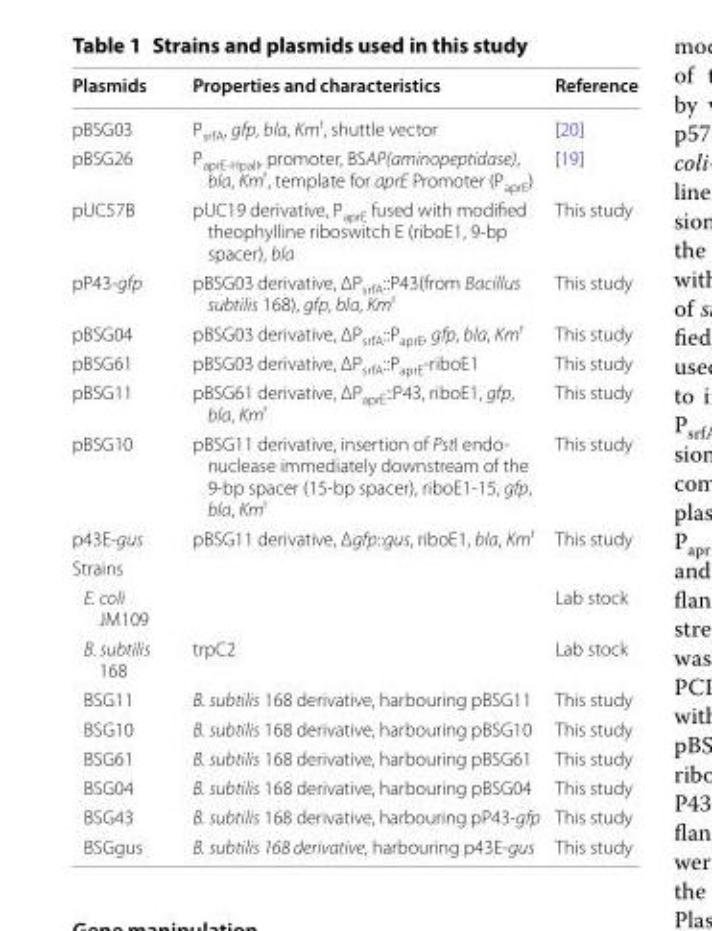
<table><thead><tr><td>Plasmids</td><td>Properties and characteristics</td><td>Reference</td></tr></thead><tbody><tr><td>pBSG03</td><td>P<sub>srfA</sub>, gfp, bla, Km<sup>r</sup>, shuttle vector</td><td>[20]</td></tr><tr><td>pBSG26</td><td>P<sub>aprE-HpaII</sub>, promoter, BSAP(aminopeptidase), bla, Km<sup>r</sup>, template for aprE Promoter (P<sub>aprE</sub>)</td><td>[19]</td></tr><tr><td>pUC57B</td><td>pUC19 derivative, P<sub>aprE</sub> fused with modified theophylline riboswitch E (riboE1, 9-bp spacer), bla</td><td>This study</td></tr><tr><td>pP43-gfp</td><td>pBSG03 derivative, ΔP<sub>srfA</sub>::P43(from Bacillus subtilis 168), gfp, bla, Km<sup>r</sup></td><td>This study</td></tr><tr><td>pBSG04</td><td>pBSG03 derivative, ΔP<sub>srfA</sub>::P<sub>aprE</sub>, gfp, bla, Km<sup>r</sup></td><td>This study</td></tr><tr><td>pBSG61</td><td>pBSG03 derivative, ΔP<sub>srfA</sub>::P<sub>aprE</sub>-riboE1</td><td>This study</td></tr><tr><td>pBSG11</td><td>pBSG61 derivative, ΔP<sub>aprE</sub>::P43, riboE1, gfp, bla, Km<sup>r</sup></td><td>This study</td></tr><tr><td>pBSG10</td><td>pBSG11 derivative, insertion of PstI endo- nuclease immediately downstream of the 9-bp spacer (15-bp spacer), riboE1-15, gfp, bla, Kmr</td><td>This study</td></tr><tr><td>p43E-gus</td><td>pBSG11 derivative, Δgfp::gus, riboE1, bla, Km<sup>r</sup></td><td>This study</td></tr><tr><td colspan="3">Strains</td></tr><tr><td>E. coli JM109</td><td></td><td>Lab stock</td></tr><tr><td>B. subtilis 168</td><td>trpC2</td><td>Lab stock</td></tr><tr><td>BSG11</td><td>B. subtilis 168 derivative, harbouring pBSG11</td><td>This study</td></tr><tr><td>BSG10</td><td>B. subtilis 168 derivative, harbouring pBSG10</td><td>This study</td></tr><tr><td>BSG61</td><td>B. subtilis 168 derivative, harbouring pBSG61</td><td>This study</td></tr><tr><td>BSG04</td><td>B. subtilis 168 derivative, harbouring pBSG04</td><td>This study</td></tr><tr><td>BSG43</td><td>B. subtilis 168 derivative, harbouring pP43-gfp</td><td>This study</td></tr><tr><td>BSGgus</td><td>B. subtilis 168 derivative, harbouring p43E-gus</td><td>This study</td></tr></tbody></table>